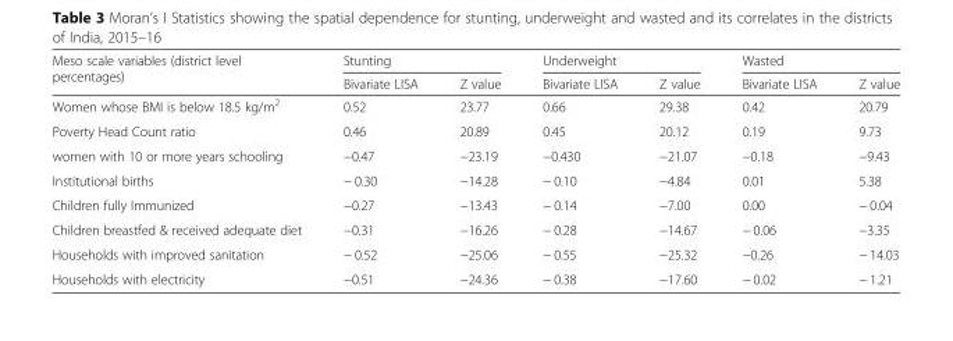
<table><thead><tr><td rowspan="2">Meso scale variables (district level percentages)</td><td colspan="2">Stunting</td><td colspan="2">Underweight</td><td colspan="2">Wasted</td></tr><tr><td>Bivariate LISA</td><td>Z value</td><td>Bivariate LISA</td><td>Z value</td><td>Bivariate LISA</td><td>Z value</td></tr></thead><tbody><tr><td>Women whose BMI is below 18.5 kg/m<sup>2</sup></td><td>0.52</td><td>23.77</td><td>0.66</td><td>29.38</td><td>0.42</td><td>20.79</td></tr><tr><td>Poverty Head Count ratio</td><td>0.46</td><td>20.89</td><td>0.45</td><td>20.12</td><td>0.19</td><td>9.73</td></tr><tr><td>women with 10 or more years schooling</td><td>−0.47</td><td>−23.19</td><td>−0.430</td><td>−21.07</td><td>−0.18</td><td>−9.43</td></tr><tr><td>Institutional births</td><td>− 0.30</td><td>−14.28</td><td>− 0.10</td><td>−4.84</td><td>0.01</td><td>5.38</td></tr><tr><td>Children fully Immunized</td><td>−0.27</td><td>−13.43</td><td>− 0.14</td><td>−7.00</td><td>0.00</td><td>− 0.04</td></tr><tr><td>Children breastfed &amp; received adequate diet</td><td>−0.31</td><td>−16.26</td><td>− 0.28</td><td>−14.67</td><td>− 0.06</td><td>−3.35</td></tr><tr><td>Households with improved sanitation</td><td>− 0.52</td><td>−25.06</td><td>− 0.55</td><td>−25.32</td><td>−0.26</td><td>− 14.03</td></tr><tr><td>Households with electricity</td><td>−0.51</td><td>−24.36</td><td>− 0.38</td><td>−17.60</td><td>− 0.02</td><td>− 1.21</td></tr></tbody></table>